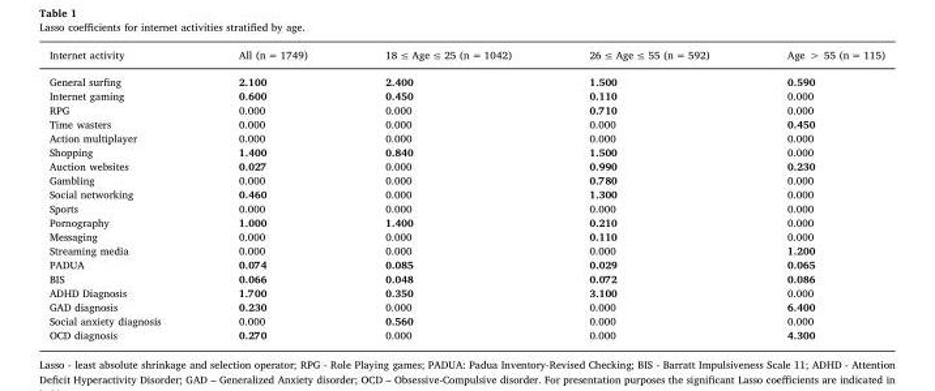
<table><thead><tr><td>Internet activity</td><td>All (n = 1749)</td><td>18 ≤ Age ≤ 25 (n = 1042)</td><td>26 ≤ Age ≤ 55 (n = 592)</td><td>Age &gt; 55 (n = 115)</td></tr></thead><tbody><tr><td>General surfing</td><td>2.100</td><td>2.400</td><td>1.500</td><td>0.590</td></tr><tr><td>Internet gaming</td><td>0.600</td><td>0.450</td><td>0.110</td><td>0.000</td></tr><tr><td>RPG</td><td>0.000</td><td>0.000</td><td>0.710</td><td>0.000</td></tr><tr><td>Time wasters</td><td>0.000</td><td>0.000</td><td>0.000</td><td>0.450</td></tr><tr><td>Action multiplayer</td><td>0.000</td><td>0.000</td><td>0.000</td><td>0.000</td></tr><tr><td>Shopping</td><td>1.400</td><td>0.840</td><td>1.500</td><td>0.000</td></tr><tr><td>Auction websites</td><td>0.027</td><td>0.000</td><td>0.990</td><td>0.230</td></tr><tr><td>Gambling</td><td>0.000</td><td>0.000</td><td>0.780</td><td>0.000</td></tr><tr><td>Social networking</td><td>0.460</td><td>0.000</td><td>1.300</td><td>0.000</td></tr><tr><td>Sports</td><td>0.000</td><td>0.000</td><td>0.000</td><td>0.000</td></tr><tr><td>Pornography</td><td>1.000</td><td>1.400</td><td>0.210</td><td>0.000</td></tr><tr><td>Messaging</td><td>0.000</td><td>0.000</td><td>0.110</td><td>0.000</td></tr><tr><td>Streaming media</td><td>0.000</td><td>0.000</td><td>0.000</td><td>1.200</td></tr><tr><td>PADUA</td><td>0.074</td><td>0.085</td><td>0.029</td><td>0.065</td></tr><tr><td>BIS</td><td>0.066</td><td>0.048</td><td>0.072</td><td>0.086</td></tr><tr><td>ADHD Diagnosis</td><td>1.700</td><td>0.350</td><td>3.100</td><td>0.000</td></tr><tr><td>GAD diagnosis</td><td>0.230</td><td>0.000</td><td>0.000</td><td>6.400</td></tr><tr><td>Social anxiety diagnosis</td><td>0.000</td><td>0.560</td><td>0.000</td><td>0.000</td></tr><tr><td>OCD diagnosis</td><td>0.270</td><td>0.000</td><td>0.000</td><td>4.300</td></tr></tbody></table>